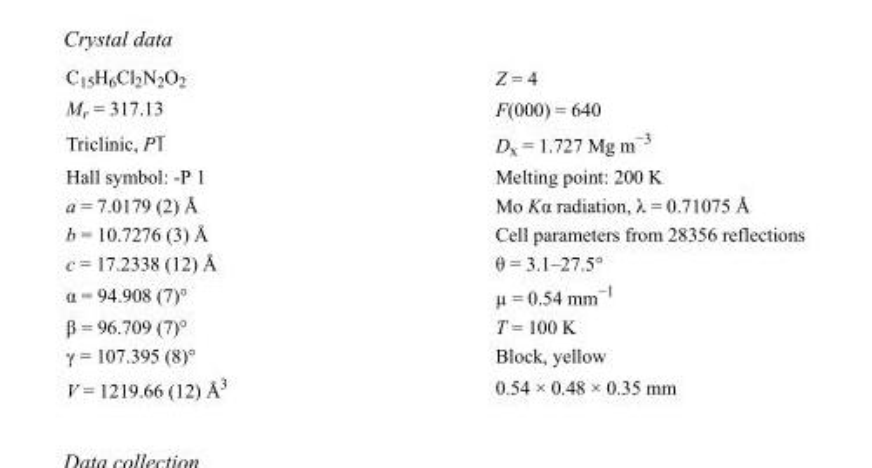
<table><tbody><tr><td>C<sub>15</sub>H<sub>6</sub>Cl<sub>2</sub>N<sub>2</sub>O<sub>2</sub></td><td>Z = 4</td></tr><tr><td>M<sub>r</sub> = 317.13</td><td>F(000) = 640</td></tr><tr><td>Triclinic, P1</td><td>D<sub>x</sub> = 1.727 Mg m<sup>−3</sup></td></tr><tr><td>Hall symbol: -P 1</td><td>Melting point: 200 K</td></tr><tr><td>a = 7.0179 (2) Å</td><td>Mo Kα radiation, λ = 0.71075 Å</td></tr><tr><td>b = 10.7276 (3) Å</td><td>Cell parameters from 28356 reflections</td></tr><tr><td>c = 17.2338 (12) Å</td><td>θ = 3.1–27.5°</td></tr><tr><td>α = 94.908 (7)°</td><td>µ = 0.54 mm<sup>−1</sup></td></tr><tr><td>β = 96.709 (7)°</td><td>T = 100 K</td></tr><tr><td>γ = 107.395 (8)°</td><td>Block, yellow</td></tr><tr><td>V = 1219.66 (12) Å<sup>3</sup></td><td>0.54 × 0.48 × 0.35 mm</td></tr></tbody></table>